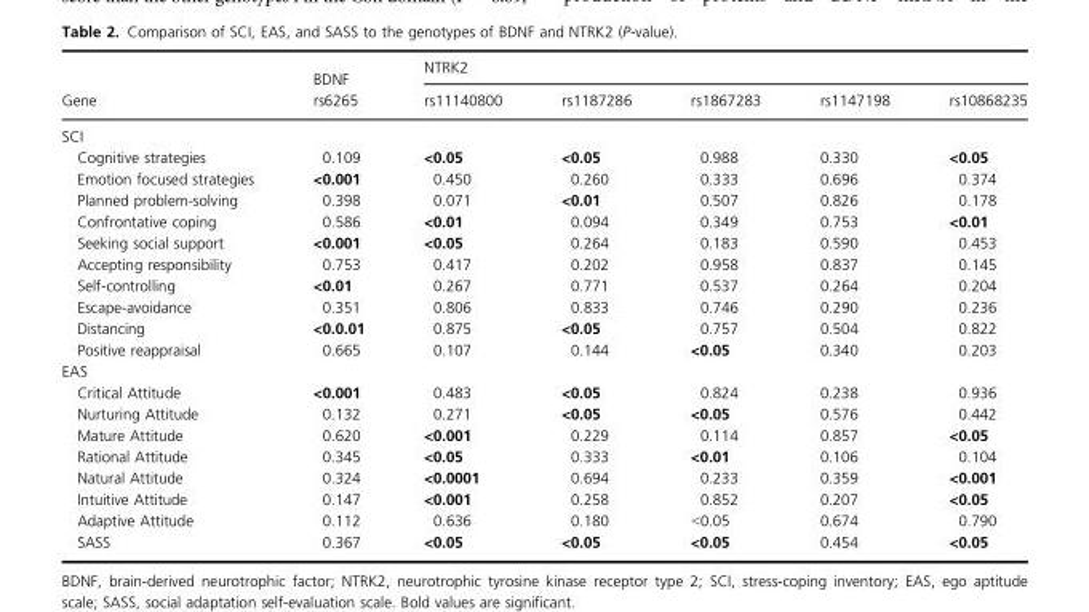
<table><thead><tr><td rowspan="2">Gene</td><td rowspan="2">BDNF rs6265</td><td colspan="5">NTRK2</td></tr><tr><td>rs11140800</td><td>rs1187286</td><td>rs1867283</td><td>rs1147198</td><td>rs10868235</td></tr></thead><tbody><tr><td colspan="7">SCI</td></tr><tr><td>Cognitive strategies</td><td>0.109</td><td>&lt;0.05</td><td>&lt;0.05</td><td>0.988</td><td>0.330</td><td>&lt;0.05</td></tr><tr><td>Emotion focused strategies</td><td>&lt;0.001</td><td>0.450</td><td>0.260</td><td>0.333</td><td>0.696</td><td>0.374</td></tr><tr><td>Planned problem-solving</td><td>0.398</td><td>0.071</td><td>&lt;0.01</td><td>0.507</td><td>0.826</td><td>0.178</td></tr><tr><td>Confrontative coping</td><td>0.586</td><td>&lt;0.01</td><td>0.094</td><td>0.349</td><td>0.753</td><td>&lt;0.01</td></tr><tr><td>Seeking social support</td><td>&lt;0.001</td><td>&lt;0.05</td><td>0.264</td><td>0.183</td><td>0.590</td><td>0.453</td></tr><tr><td>Accepting responsibility</td><td>0.753</td><td>0.417</td><td>0.202</td><td>0.958</td><td>0.837</td><td>0.145</td></tr><tr><td>Self-controlling</td><td>&lt;0.01</td><td>0.267</td><td>0.771</td><td>0.537</td><td>0.264</td><td>0.204</td></tr><tr><td>Escape-avoidance</td><td>0.351</td><td>0.806</td><td>0.833</td><td>0.746</td><td>0.290</td><td>0.236</td></tr><tr><td>Distancing</td><td>&lt;0.0.01</td><td>0.875</td><td>&lt;0.05</td><td>0.757</td><td>0.504</td><td>0.822</td></tr><tr><td>Positive reappraisal</td><td>0.665</td><td>0.107</td><td>0.144</td><td>&lt;0.05</td><td>0.340</td><td>0.203</td></tr><tr><td colspan="7">EAS</td></tr><tr><td>Critical Attitude</td><td>&lt;0.001</td><td>0.483</td><td>&lt;0.05</td><td>0.824</td><td>0.238</td><td>0.936</td></tr><tr><td>Nurturing Attitude</td><td>0.132</td><td>0.271</td><td>&lt;0.05</td><td>&lt;0.05</td><td>0.576</td><td>0.442</td></tr><tr><td>Mature Attitude</td><td>0.620</td><td>&lt;0.001</td><td>0.229</td><td>0.114</td><td>0.857</td><td>&lt;0.05</td></tr><tr><td>Rational Attitude</td><td>0.345</td><td>&lt;0.05</td><td>0.333</td><td>&lt;0.01</td><td>0.106</td><td>0.104</td></tr><tr><td>Natural Attitude</td><td>0.324</td><td>&lt;0.0001</td><td>0.694</td><td>0.233</td><td>0.359</td><td>&lt;0.001</td></tr><tr><td>Intuitive Attitude</td><td>0.147</td><td>&lt;0.001</td><td>0.258</td><td>0.852</td><td>0.207</td><td>&lt;0.05</td></tr><tr><td>Adaptive Attitude</td><td>0.112</td><td>0.636</td><td>0.180</td><td>&lt;0.05</td><td>0.674</td><td>0.790</td></tr><tr><td>SASS</td><td>0.367</td><td>&lt;0.05</td><td>&lt;0.05</td><td>&lt;0.05</td><td>0.454</td><td>&lt;0.05</td></tr></tbody></table>